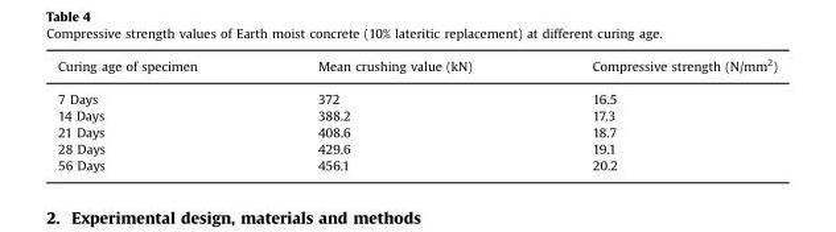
<table><thead><tr><td>Curing age of specimen</td><td>Mean crushing value (kN)</td><td>Compressive strength (N/mm<sup>2</sup>)</td></tr></thead><tbody><tr><td>7 Days</td><td>372</td><td>16.5</td></tr><tr><td>14 Days</td><td>388.2</td><td>17.3</td></tr><tr><td>21 Days</td><td>408.6</td><td>18.7</td></tr><tr><td>28 Days</td><td>429.6</td><td>19.1</td></tr><tr><td>56 Days</td><td>456.1</td><td>20.2</td></tr></tbody></table>